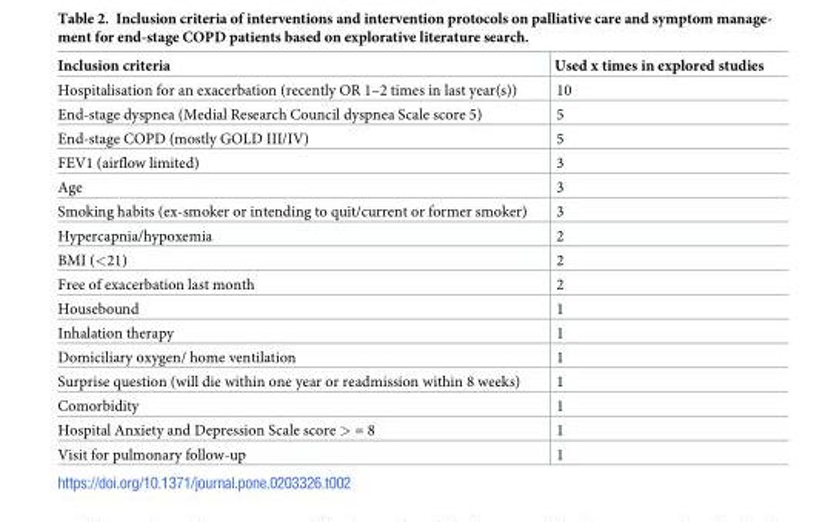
<table><thead><tr><td>Inclusion criteria</td><td>Used x times in explored studies</td></tr></thead><tbody><tr><td>Hospitalisation for an exacerbation (recently OR 1–2 times in last year(s))</td><td>10</td></tr><tr><td>End-stage dyspnea (Medial Research Council dyspnea Scale score 5)</td><td>5</td></tr><tr><td>End-stage COPD (mostly GOLD III/IV)</td><td>5</td></tr><tr><td>FEV1 (airflow limited)</td><td>3</td></tr><tr><td>Age</td><td>3</td></tr><tr><td>Smoking habits (ex-smoker or intending to quit/current or former smoker)</td><td>3</td></tr><tr><td>Hypercapnia/hypoxemia</td><td>2</td></tr><tr><td>BMI (&lt;21)</td><td>2</td></tr><tr><td>Free of exacerbation last month</td><td>2</td></tr><tr><td>Housebound</td><td>1</td></tr><tr><td>Inhalation therapy</td><td>1</td></tr><tr><td>Domiciliary oxygen/ home ventilation</td><td>1</td></tr><tr><td>Surprise question (will die within one year or readmission within 8 weeks)</td><td>1</td></tr><tr><td>Comorbidity</td><td>1</td></tr><tr><td>Hospital Anxiety and Depression Scale score &gt; = 8</td><td>1</td></tr><tr><td>Visit for pulmonary follow-up</td><td>1</td></tr></tbody></table>